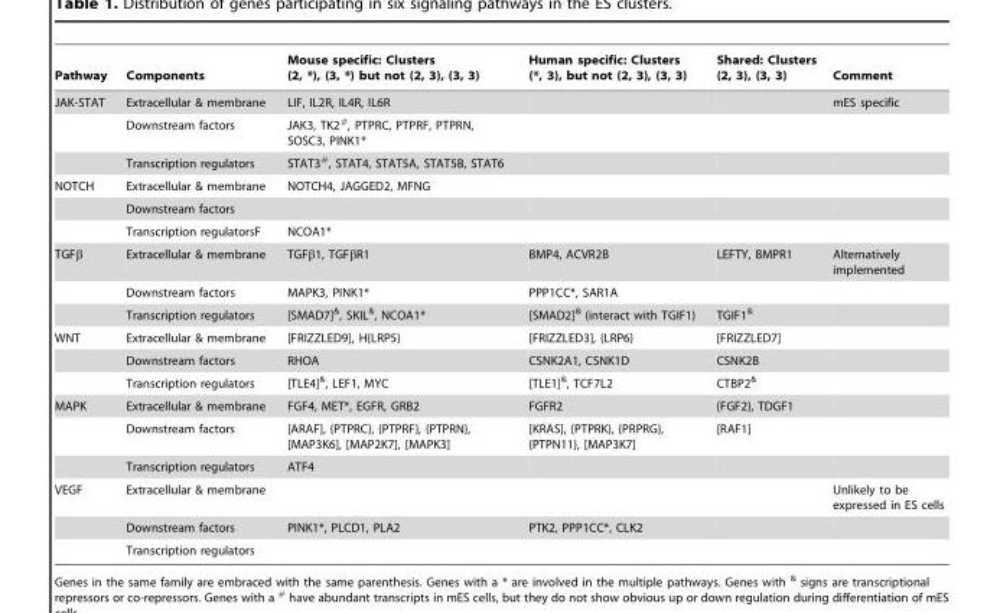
<table><thead><tr><td>Pathway</td><td>Components</td><td>Mouse specific: Clusters (2, *), (3, *) but not (2, 3), (3, 3)</td><td>Human specific: Clusters (*, 3), but not (2, 3), (3, 3)</td><td>Shared: Clusters (2, 3), (3, 3)</td><td>Comment</td></tr></thead><tbody><tr><td rowspan="3">JAK-STAT</td><td>Extracellular &amp; membrane</td><td>LIF, IL2R, IL4R, IL6R</td><td></td><td></td><td>mES specific</td></tr><tr><td>Downstream factors</td><td>JAK3, TK2<sup>#</sup>, PTPRC, PTPRF, PTPRN, SOSC3, PINK1*</td><td></td><td></td><td></td></tr><tr><td>Transcription regulators</td><td>STAT3<sup>#</sup>, STAT4, STAT5A, STAT5B, STAT6</td><td></td><td></td><td></td></tr><tr><td rowspan="3">NOTCH</td><td>Extracellular &amp; membrane</td><td>NOTCH4, JAGGED2, MFNG</td><td></td><td></td><td></td></tr><tr><td>Downstream factors</td><td></td><td></td><td></td><td></td></tr><tr><td>Transcription regulatorsF</td><td>NCOA1*</td><td></td><td></td><td></td></tr><tr><td rowspan="3">TGFβ</td><td>Extracellular &amp; membrane</td><td>TGFβ1, TGFβR1</td><td>BMP4, ACVR2B</td><td>LEFTY, BMPR1</td><td>Alternatively implemented</td></tr><tr><td>Downstream factors</td><td>MAPK3, PINK1*</td><td>PPP1CC*, SAR1A</td><td></td><td></td></tr><tr><td>Transcription regulators</td><td>[SMAD7]<sup>&amp;</sup>, SKIL<sup>&amp;</sup>, NCOA1*</td><td>[SMAD2]<sup>&amp;</sup> (interact with TGIF1)</td><td>TGIF1<sup>&amp;</sup></td><td></td></tr><tr><td rowspan="3">WNT</td><td>Extracellular &amp; membrane</td><td>[FRIZZLED9], H{LRP5}</td><td>[FRIZZLED3], {LRP6}</td><td>[FRIZZLED7]</td><td></td></tr><tr><td>Downstream factors</td><td>RHOA</td><td>CSNK2A1, CSNK1D</td><td>CSNK2B</td><td></td></tr><tr><td>Transcription regulators</td><td>[TLE4]<sup>&amp;</sup>, LEF1, MYC</td><td>[TLE1]<sup>&amp;</sup>, TCF7L2</td><td>CTBP2<sup>&amp;</sup></td><td></td></tr><tr><td rowspan="3">MAPK</td><td>Extracellular &amp; membrane</td><td>FGF4, MET*, EGFR, GRB2</td><td>FGFR2</td><td>{FGF2}, TDGF1</td><td></td></tr><tr><td>Downstream factors</td><td>[ARAF], {PTPRC}, {PTPRF}, {PTPRN}, [MAP3K6], [MAP2K7], [MAPK3]</td><td>[KRAS], {PTPRK}, {PRPRG}, {PTPN11}, [MAP3K7]</td><td>[RAF1]</td><td></td></tr><tr><td>Transcription regulators</td><td>ATF4</td><td></td><td></td><td></td></tr><tr><td rowspan="3">VEGF</td><td>Extracellular &amp; membrane</td><td></td><td></td><td></td><td>Unlikely to be expressed in ES cells</td></tr><tr><td>Downstream factors</td><td>PINK1*, PLCD1, PLA2</td><td>PTK2, PPP1CC*, CLK2</td><td></td><td></td></tr><tr><td>Transcription regulators</td><td></td><td></td><td></td><td></td></tr></tbody></table>